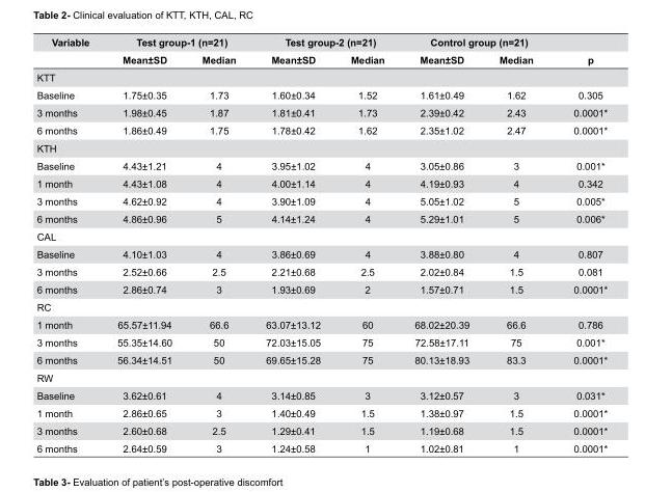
<table><thead><tr><td rowspan="2">Variable</td><td colspan="2">Test group-1 (n=21)</td><td colspan="2">Test group-2 (n=21)</td><td colspan="2">Control group (n=21)</td><td rowspan="2">p</td></tr><tr><td>Mean±SD</td><td>Median</td><td>Mean±SD</td><td>Median</td><td>Mean±SD</td><td>Median</td></tr></thead><tbody><tr><td colspan="8">KTT</td></tr><tr><td>Baseline</td><td>1.75±0.35</td><td>1.73</td><td>1.60±0.34</td><td>1.52</td><td>1.61±0.49</td><td>1.62</td><td>0.305</td></tr><tr><td>3 months</td><td>1.98±0.45</td><td>1.87</td><td>1.81±0.41</td><td>1.73</td><td>2.39±0.42</td><td>2.43</td><td>0.0001*</td></tr><tr><td>6 months</td><td>1.86±0.49</td><td>1.75</td><td>1.78±0.42</td><td>1.62</td><td>2.35±1.02</td><td>2.47</td><td>0.0001*</td></tr><tr><td colspan="8">KTH</td></tr><tr><td>Baseline</td><td>4.43±1.21</td><td>4</td><td>3.95±1.02</td><td>4</td><td>3.05±0.86</td><td>3</td><td>0.001*</td></tr><tr><td>1 month</td><td>4.43±1.08</td><td>4</td><td>4.00±1.14</td><td>4</td><td>4.19±0.93</td><td>4</td><td>0.342</td></tr><tr><td>3 months</td><td>4.62±0.92</td><td>4</td><td>3.90±1.09</td><td>4</td><td>5.05±1.02</td><td>5</td><td>0.005*</td></tr><tr><td>6 months</td><td>4.86±0.96</td><td>5</td><td>4.14±1.24</td><td>4</td><td>5.29±1.01</td><td>5</td><td>0.006*</td></tr><tr><td colspan="8">CAL</td></tr><tr><td>Baseline</td><td>4.10±1.03</td><td>4</td><td>3.86±0.69</td><td>4</td><td>3.88±0.80</td><td>4</td><td>0.807</td></tr><tr><td>3 months</td><td>2.52±0.66</td><td>2.5</td><td>2.21±0.68</td><td>2.5</td><td>2.02±0.84</td><td>1.5</td><td>0.081</td></tr><tr><td>6 months</td><td>2.86±0.74</td><td>3</td><td>1.93±0.69</td><td>2</td><td>1.57±0.71</td><td>1.5</td><td>0.0001*</td></tr><tr><td colspan="8">RC</td></tr><tr><td>1 month</td><td>65.57±11.94</td><td>66.6</td><td>63.07±13.12</td><td>60</td><td>68.02±20.39</td><td>66.6</td><td>0.786</td></tr><tr><td>3 months</td><td>55.35±14.60</td><td>50</td><td>72.03±15.05</td><td>75</td><td>72.58±17.11</td><td>75</td><td>0.001*</td></tr><tr><td>6 months</td><td>56.34±14.51</td><td>50</td><td>69.65±15.28</td><td>75</td><td>80.13±18.93</td><td>83.3</td><td>0.0001*</td></tr><tr><td colspan="8">RW</td></tr><tr><td>Baseline</td><td>3.62±0.61</td><td>4</td><td>3.14±0.85</td><td>3</td><td>3.12±0.57</td><td>3</td><td>0.031*</td></tr><tr><td>1 month</td><td>2.86±0.65</td><td>3</td><td>1.40±0.49</td><td>1.5</td><td>1.38±0.97</td><td>1.5</td><td>0.0001*</td></tr><tr><td>3 months</td><td>2.60±0.68</td><td>2.5</td><td>1.29±0.41</td><td>1.5</td><td>1.19±0.68</td><td>1.5</td><td>0.0001*</td></tr><tr><td>6 months</td><td>2.64±0.59</td><td>3</td><td>1.24±0.58</td><td>1</td><td>1.02±0.81</td><td>1</td><td>0.0001*</td></tr></tbody></table>